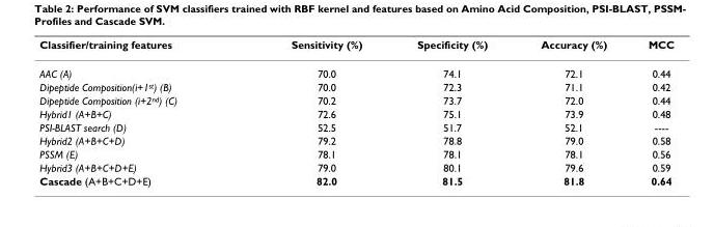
<table><thead><tr><td>Classifier/training features</td><td>Sensitivity (%)</td><td>Specificity (%)</td><td>Accuracy (%)</td><td>MCC</td></tr></thead><tbody><tr><td>AAC (A)</td><td>70.0</td><td>74.1</td><td>72.1</td><td>0.44</td></tr><tr><td>Dipeptide Composition(i+1<sup>st</sup>) (B)</td><td>70.0</td><td>72.3</td><td>71.1</td><td>0.42</td></tr><tr><td>Dipeptide Composition (i+2<sup>nd</sup>) (C)</td><td>70.2</td><td>73.7</td><td>72.0</td><td>0.44</td></tr><tr><td>Hybrid1 (A+B+C)</td><td>72.6</td><td>75.1</td><td>73.9</td><td>0.48</td></tr><tr><td>PSI-BLAST search (D)</td><td>52.5</td><td>51.7</td><td>52.1</td><td>----</td></tr><tr><td>Hybrid2 (A+B+C+D)</td><td>79.2</td><td>78.8</td><td>79.0</td><td>0.58</td></tr><tr><td>PSSM (E)</td><td>78.1</td><td>78.1</td><td>78.1</td><td>0.56</td></tr><tr><td>Hybrid3 (A+B+C+D+E)</td><td>79.0</td><td>80.1</td><td>79.6</td><td>0.59</td></tr><tr><td>Cascade (A+B+C+D+E)</td><td>82.0</td><td>81.5</td><td>81.8</td><td>0.64</td></tr></tbody></table>